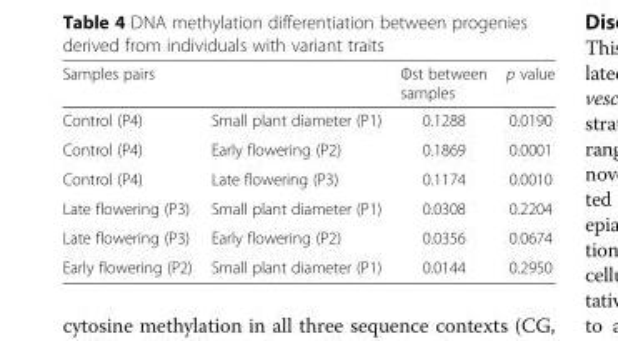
<table><thead><tr><td colspan="2">Samples pairs</td><td rowspan="2">Φst between samples 0.1288</td><td rowspan="2">p value 0.0190</td></tr><tr><td>Control (P4)</td><td>Small plant diameter (P1)</td></tr></thead><tbody><tr><td>Control (P4)</td><td>Early flowering (P2)</td><td>0.1869</td><td>0.0001</td></tr><tr><td>Control (P4)</td><td>Late flowering (P3)</td><td>0.1174</td><td>0.0010</td></tr><tr><td>Late flowering (P3)</td><td>Small plant diameter (P1)</td><td>0.0308</td><td>0.2204</td></tr><tr><td>Late flowering (P3)</td><td>Early flowering (P2)</td><td>0.0356</td><td>0.0674</td></tr><tr><td>Early flowering (P2)</td><td>Small plant diameter (P1)</td><td>0.0144</td><td>0.2950</td></tr></tbody></table>